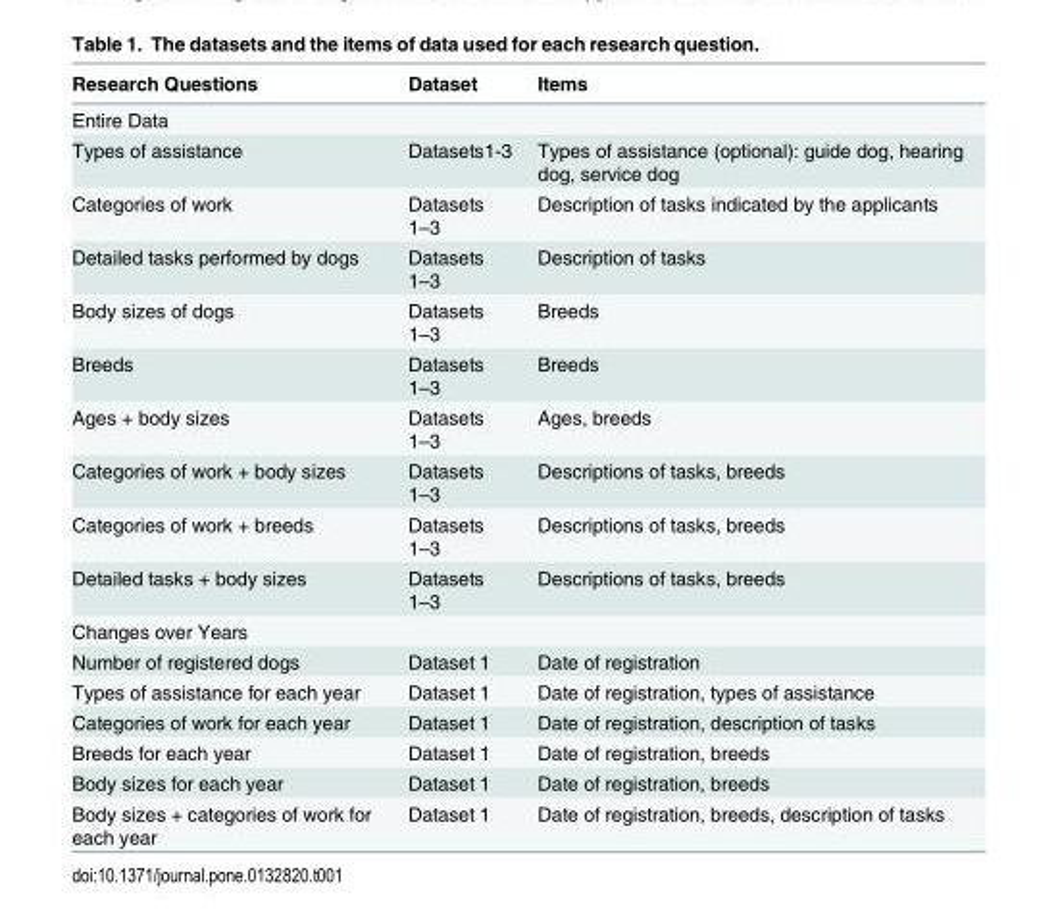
<table><thead><tr><td>Research Questions</td><td>Dataset</td><td>Items</td></tr></thead><tbody><tr><td colspan="3">Entire Data</td></tr><tr><td>Types of assistance</td><td>Datasets1-3</td><td>Types of assistance (optional): guide dog, hearing dog, service dog</td></tr><tr><td>Categories of work</td><td>Datasets 1–3</td><td>Description of tasks indicated by the applicants</td></tr><tr><td>Detailed tasks performed by dogs</td><td>Datasets 1–3</td><td>Description of tasks</td></tr><tr><td>Body sizes of dogs</td><td>Datasets 1–3</td><td>Breeds</td></tr><tr><td>Breeds</td><td>Datasets 1–3</td><td>Breeds</td></tr><tr><td>Ages + body sizes</td><td>Datasets 1–3</td><td>Ages, breeds</td></tr><tr><td>Categories of work + body sizes</td><td>Datasets 1–3</td><td>Descriptions of tasks, breeds</td></tr><tr><td>Categories of work + breeds</td><td>Datasets 1–3</td><td>Descriptions of tasks, breeds</td></tr><tr><td>Detailed tasks + body sizes</td><td>Datasets 1–3</td><td>Descriptions of tasks, breeds</td></tr><tr><td colspan="3">Changes over Years</td></tr><tr><td>Number of registered dogs</td><td>Dataset 1</td><td>Date of registration</td></tr><tr><td>Types of assistance for each year</td><td>Dataset 1</td><td>Date of registration, types of assistance</td></tr><tr><td>Categories of work for each year</td><td>Dataset 1</td><td>Date of registration, description of tasks</td></tr><tr><td>Breeds for each year</td><td>Dataset 1</td><td>Date of registration, breeds</td></tr><tr><td>Body sizes for each year</td><td>Dataset 1</td><td>Date of registration, breeds</td></tr><tr><td>Body sizes + categories of work for each year</td><td>Dataset 1</td><td>Date of registration, breeds, description of tasks</td></tr></tbody></table>